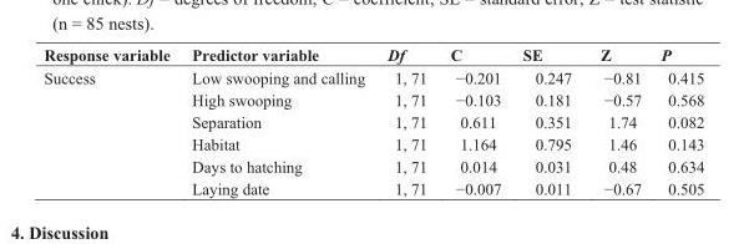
<table><thead><tr><td>Response variable</td><td>Predictor variable</td><td>Df</td><td>C</td><td>SE</td><td>Z</td><td>P</td></tr></thead><tbody><tr><td rowspan="6">Success</td><td>Low swooping and calling</td><td>1, 71</td><td>−0.201</td><td>0.247</td><td>−0.81</td><td>0.415</td></tr><tr><td>High swooping</td><td>1, 71</td><td>−0.103</td><td>0.181</td><td>−0.57</td><td>0.568</td></tr><tr><td>Separation</td><td>1, 71</td><td>0.611</td><td>0.351</td><td>1.74</td><td>0.082</td></tr><tr><td>Habitat</td><td>1, 71</td><td>1.164</td><td>0.795</td><td>1.46</td><td>0.143</td></tr><tr><td>Days to hatching</td><td>1, 71</td><td>0.014</td><td>0.031</td><td>0.48</td><td>0.634</td></tr><tr><td>Laying date</td><td>1, 71</td><td>−0.007</td><td>0.011</td><td>−0.67</td><td>0.505</td></tr></tbody></table>